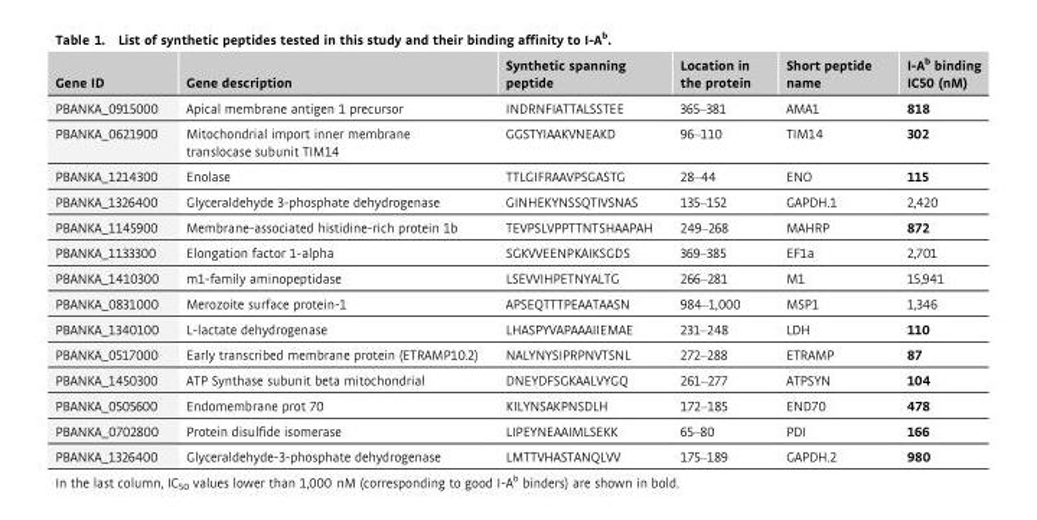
<table><thead><tr><td>Gene ID</td><td>Gene description</td><td>Synthetic spanning peptide</td><td>Location in the protein</td><td>Short peptide name</td><td>I-A<sup>b</sup> binding IC50 (nM)</td></tr></thead><tbody><tr><td>PBANKA_0915000</td><td>Apical membrane antigen 1 precursor</td><td>INDRNFIATTALSSTEE</td><td>365–381</td><td>AMA1</td><td>818</td></tr><tr><td>PBANKA_0621900</td><td>Mitochondrial import inner membrane translocase subunit TIM14</td><td>GGSTYIAAKVNEAKD</td><td>96–110</td><td>TIM14</td><td>302</td></tr><tr><td>PBANKA_1214300</td><td>Enolase</td><td>TTLGIFRAAVPSGASTG</td><td>28–44</td><td>ENO</td><td>115</td></tr><tr><td>PBANKA_1326400</td><td>Glyceraldehyde 3-phosphate dehydrogenase</td><td>GINHEKYNSSQTIVSNAS</td><td>135–152</td><td>GAPDH.1</td><td>2,420</td></tr><tr><td>PBANKA_1145900</td><td>Membrane-associated histidine-rich protein 1b</td><td>TEVPSLVPPTTNTSHAAPAH</td><td>249–268</td><td>MAHRP</td><td>872</td></tr><tr><td>PBANKA_1133300</td><td>Elongation factor 1-alpha</td><td>SGKVVEENPKAIKSGDS</td><td>369–385</td><td>EF1a</td><td>2,701</td></tr><tr><td>PBANKA_1410300</td><td>m1-family aminopeptidase</td><td>LSEVVIHPETNYALTG</td><td>266–281</td><td>M1</td><td>15,941</td></tr><tr><td>PBANKA_0831000</td><td>Merozoite surface protein-1</td><td>APSEQTTTPEAATAASN</td><td>984–1,000</td><td>MSP1</td><td>1,346</td></tr><tr><td>PBANKA_1340100</td><td>L-lactate dehydrogenase</td><td>LHASPYVAPAAAIIEMAE</td><td>231–248</td><td>LDH</td><td>110</td></tr><tr><td>PBANKA_0517000</td><td>Early transcribed membrane protein (ETRAMP10.2)</td><td>NALYNYSIPRPNVTSNL</td><td>272–288</td><td>ETRAMP</td><td>87</td></tr><tr><td>PBANKA_1450300</td><td>ATP Synthase subunit beta mitochondrial</td><td>DNEYDFSGKAALVYGQ</td><td>261–277</td><td>ATPSYN</td><td>104</td></tr><tr><td>PBANKA_0505600</td><td>Endomembrane prot 70</td><td>KILYNSAKPNSDLH</td><td>172–185</td><td>END70</td><td>478</td></tr><tr><td>PBANKA_0702800</td><td>Protein disulfide isomerase</td><td>LIPEYNEAAIMLSEKK</td><td>65–80</td><td>PDI</td><td>166</td></tr><tr><td>PBANKA_1326400</td><td>Glyceraldehyde-3-phosphate dehydrogenase</td><td>LMTTVHASTANQLVV</td><td>175–189</td><td>GAPDH.2</td><td>980</td></tr></tbody></table>